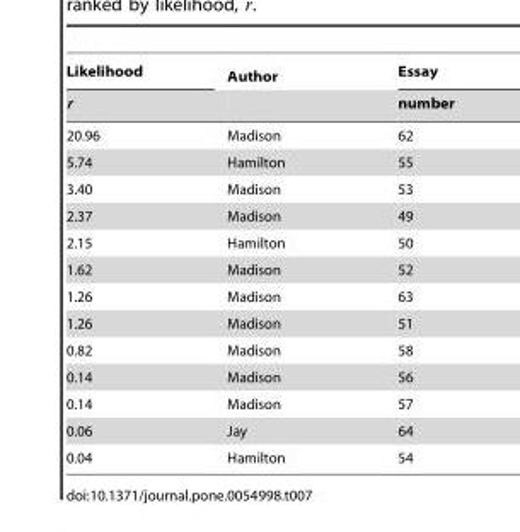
<table><thead><tr><td rowspan="2">Likelihood r</td><td rowspan="2">Author</td><td rowspan="2">Essay number</td></tr><tr></tr></thead><tbody><tr><td>20.96</td><td>Madison</td><td>62</td></tr><tr><td>5.74</td><td>Hamilton</td><td>55</td></tr><tr><td>3.40</td><td>Madison</td><td>53</td></tr><tr><td>2.37</td><td>Madison</td><td>49</td></tr><tr><td>2.15</td><td>Hamilton</td><td>50</td></tr><tr><td>1.62</td><td>Madison</td><td>52</td></tr><tr><td>1.26</td><td>Madison</td><td>63</td></tr><tr><td>1.26</td><td>Madison</td><td>51</td></tr><tr><td>0.82</td><td>Madison</td><td>58</td></tr><tr><td>0.14</td><td>Madison</td><td>56</td></tr><tr><td>0.14</td><td>Madison</td><td>57</td></tr><tr><td>0.06</td><td>Jay</td><td>64</td></tr><tr><td>0.04</td><td>Hamilton</td><td>54</td></tr></tbody></table>